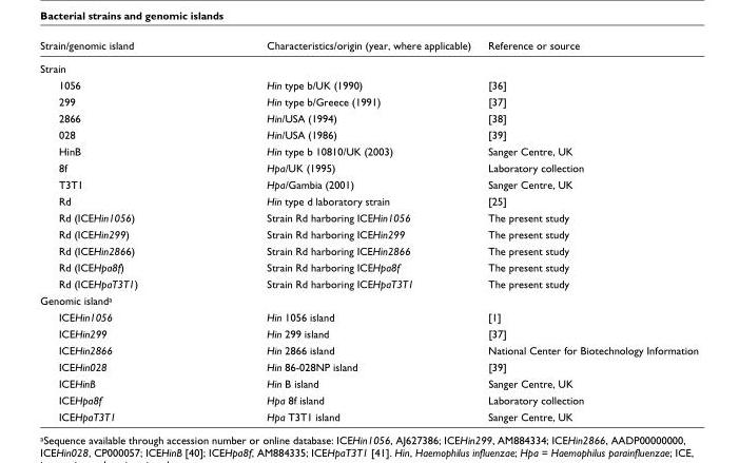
<table><thead><tr><td>Strain/genomic island</td><td>Characteristics/origin (year, where applicable)</td><td>Reference or source</td></tr></thead><tbody><tr><td colspan="3">Strain</td></tr><tr><td>1056</td><td>Hin type b/UK (1990)</td><td>[36]</td></tr><tr><td>299</td><td>Hin type b/Greece (1991)</td><td>[37]</td></tr><tr><td>2866</td><td>Hin/USA (1994)</td><td>[38]</td></tr><tr><td>028</td><td>Hin/USA (1986)</td><td>[39]</td></tr><tr><td>HinB</td><td>Hin type b 10810/UK (2003)</td><td>Sanger Centre, UK</td></tr><tr><td>8f</td><td>Hpa/UK (1995)</td><td>Laboratory collection</td></tr><tr><td>T3T1</td><td>Hpa/Gambia (2001)</td><td>Sanger Centre, UK</td></tr><tr><td>Rd</td><td>Hin type d laboratory strain</td><td>[25]</td></tr><tr><td>Rd (ICEHin1056)</td><td>Strain Rd harboring ICEHin1056</td><td>The present study</td></tr><tr><td>Rd (ICEHin299)</td><td>Strain Rd harboring ICEHin299</td><td>The present study</td></tr><tr><td>Rd (ICEHin2866)</td><td>Strain Rd harboring ICEHin2866</td><td>The present study</td></tr><tr><td>Rd (ICEHpa8f)</td><td>Strain Rd harboring ICEHpa8f</td><td>The present study</td></tr><tr><td>Rd (ICEHpaT3T1)</td><td>Strain Rd harboring ICEHpaT3T1</td><td>The present study</td></tr><tr><td colspan="3">Genomic island<sup>a</sup></td></tr><tr><td>ICEHin1056</td><td>Hin 1056 island</td><td>[1]</td></tr><tr><td>ICEHin299</td><td>Hin 299 island</td><td>[37]</td></tr><tr><td>ICEHin2866</td><td>Hin 2866 island</td><td>National Center for Biotechnology Information</td></tr><tr><td>ICEHin028</td><td>Hin 86-028NP island</td><td>[39]</td></tr><tr><td>ICEHinB</td><td>Hin B island</td><td>Sanger Centre, UK</td></tr><tr><td>ICEHpa8f</td><td>Hpa 8f island</td><td>Laboratory collection</td></tr><tr><td>ICEHpaT3T1</td><td>Hpa T3T1 island</td><td>Sanger Centre, UK</td></tr></tbody></table>